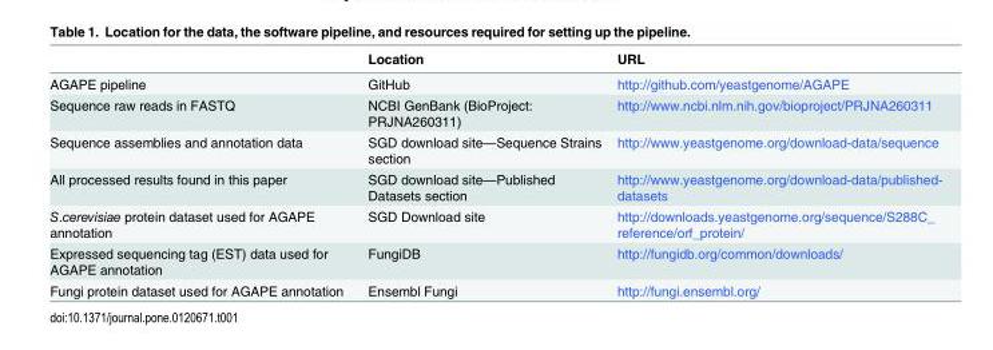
<table><thead><tr><td></td><td>Location</td><td>URL</td></tr></thead><tbody><tr><td>AGAPE pipeline</td><td>GitHub</td><td>http://github.com/yeastgenome/AGAPE</td></tr><tr><td>Sequence raw reads in FASTQ</td><td>NCBI GenBank (BioProject: PRJNA260311)</td><td>http://www.ncbi.nlm.nih.gov/bioproject/PRJNA260311</td></tr><tr><td>Sequence assemblies and annotation data</td><td>SGD download site—Sequence Strains section</td><td>http://www.yeastgenome.org/download-data/sequence</td></tr><tr><td>All processed results found in this paper</td><td>SGD download site—Published Datasets section</td><td>http://www.yeastgenome.org/download-data/published- datasets</td></tr><tr><td>S.cerevisiae protein dataset used for AGAPE annotation</td><td>SGD Download site</td><td>http://downloads.yeastgenome.org/sequence/S288C_ reference/orf_protein/</td></tr><tr><td>Expressed sequencing tag (EST) data used for AGAPE annotation</td><td>FungiDB</td><td>http://fungidb.org/common/downloads/</td></tr><tr><td>Fungi protein dataset used for AGAPE annotation</td><td>Ensembl Fungi</td><td>http://fungi.ensembl.org/</td></tr></tbody></table>